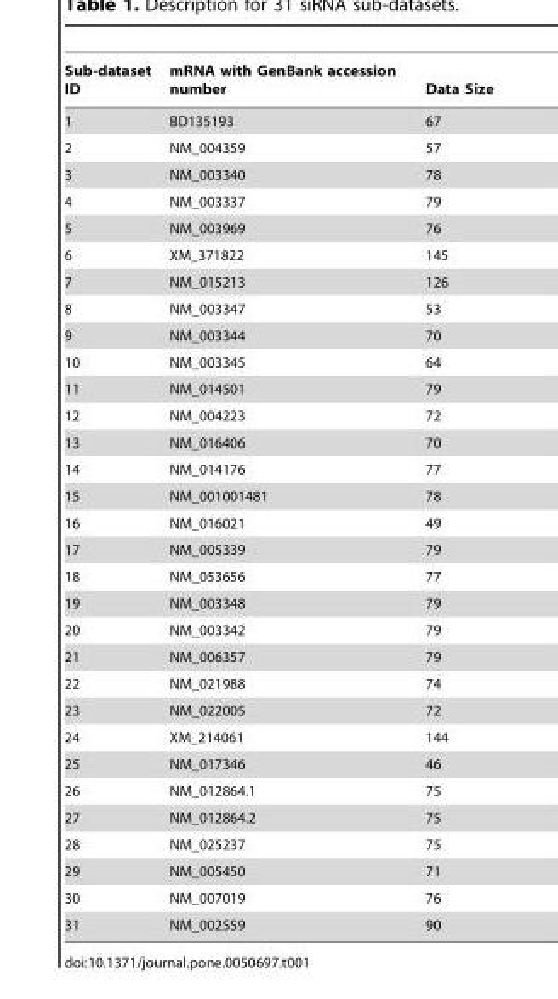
<table><thead><tr><td>Sub-dataset ID</td><td>mRNA with GenBank accession number</td><td>Data Size</td></tr></thead><tbody><tr><td>1</td><td>BD135193</td><td>67</td></tr><tr><td>2</td><td>NM_004359</td><td>57</td></tr><tr><td>3</td><td>NM_003340</td><td>78</td></tr><tr><td>4</td><td>NM_003337</td><td>79</td></tr><tr><td>5</td><td>NM_003969</td><td>76</td></tr><tr><td>6</td><td>XM_371822</td><td>145</td></tr><tr><td>7</td><td>NM_015213</td><td>126</td></tr><tr><td>8</td><td>NM_003347</td><td>53</td></tr><tr><td>9</td><td>NM_003344</td><td>70</td></tr><tr><td>10</td><td>NM_003345</td><td>64</td></tr><tr><td>11</td><td>NM_014501</td><td>79</td></tr><tr><td>12</td><td>NM_004223</td><td>72</td></tr><tr><td>13</td><td>NM_016406</td><td>70</td></tr><tr><td>14</td><td>NM_014176</td><td>77</td></tr><tr><td>15</td><td>NM_001001481</td><td>78</td></tr><tr><td>16</td><td>NM_016021</td><td>49</td></tr><tr><td>17</td><td>NM_005339</td><td>79</td></tr><tr><td>18</td><td>NM_053656</td><td>77</td></tr><tr><td>19</td><td>NM_003348</td><td>79</td></tr><tr><td>20</td><td>NM_003342</td><td>79</td></tr><tr><td>21</td><td>NM_006357</td><td>79</td></tr><tr><td>22</td><td>NM_021988</td><td>74</td></tr><tr><td>23</td><td>NM_022005</td><td>72</td></tr><tr><td>24</td><td>XM_214061</td><td>144</td></tr><tr><td>25</td><td>NM_017346</td><td>46</td></tr><tr><td>26</td><td>NM_012864.1</td><td>75</td></tr><tr><td>27</td><td>NM_012864.2</td><td>75</td></tr><tr><td>28</td><td>NM_025237</td><td>75</td></tr><tr><td>29</td><td>NM_005450</td><td>71</td></tr><tr><td>30</td><td>NM_007019</td><td>76</td></tr><tr><td>31</td><td>NM_002559</td><td>90</td></tr></tbody></table>